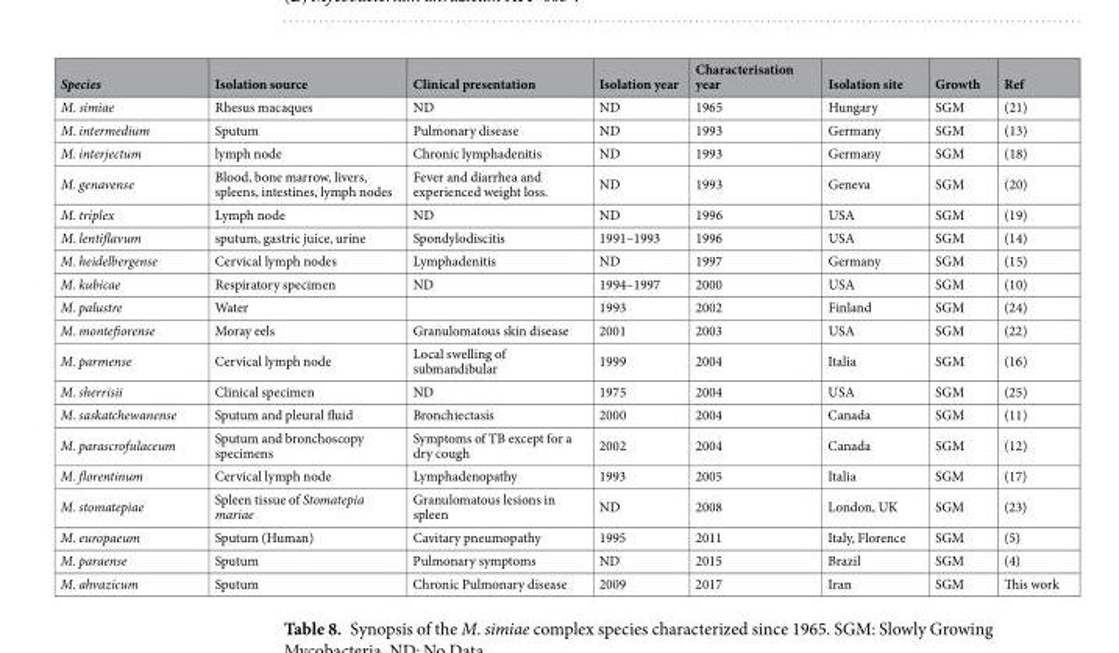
<table><thead><tr><td>Species</td><td>Isolation source</td><td>Clinical presentation</td><td>Isolation year</td><td>Characterisation year</td><td>Isolation site</td><td>Growth</td><td>Ref</td></tr></thead><tbody><tr><td>M. simiae</td><td>Rhesus macaques</td><td>ND</td><td>ND</td><td>1965</td><td>Hungary</td><td>SGM</td><td>(21)</td></tr><tr><td>M. intermedium</td><td>Sputum</td><td>Pulmonary disease</td><td>ND</td><td>1993</td><td>Germany</td><td>SGM</td><td>(13)</td></tr><tr><td>M. interjectum</td><td>lymph node</td><td>Chronic lymphadenitis</td><td>ND</td><td>1993</td><td>Germany</td><td>SGM</td><td>(18)</td></tr><tr><td>M. genavense</td><td>Blood, bone marrow, livers, spleens, intestines, lymph nodes</td><td>Fever and diarrhea and experienced weight loss.</td><td>ND</td><td>1993</td><td>Geneva</td><td>SGM</td><td>(20)</td></tr><tr><td>M. triplex</td><td>Lymph node</td><td>ND</td><td>ND</td><td>1996</td><td>USA</td><td>SGM</td><td>(19)</td></tr><tr><td>M. lentiflavum</td><td>sputum, gastric juice, urine</td><td>Spondylodiscitis</td><td>1991–1993</td><td>1996</td><td>USA</td><td>SGM</td><td>(14)</td></tr><tr><td>M. heidelbergense</td><td>Cervical lymph nodes</td><td>Lymphadenitis</td><td>ND</td><td>1997</td><td>Germany</td><td>SGM</td><td>(15)</td></tr><tr><td>M. kubicae</td><td>Respiratory specimen</td><td>ND</td><td>1994–1997</td><td>2000</td><td>USA</td><td>SGM</td><td>(10)</td></tr><tr><td>M. palustre</td><td>Water</td><td></td><td>1993</td><td>2002</td><td>Finland</td><td>SGM</td><td>(24)</td></tr><tr><td>M. montefiorense</td><td>Moray eels</td><td>Granulomatous skin disease</td><td>2001</td><td>2003</td><td>USA</td><td>SGM</td><td>(22)</td></tr><tr><td>M. parmense</td><td>Cervical lymph node</td><td>Local swelling of submandibular</td><td>1999</td><td>2004</td><td>Italia</td><td>SGM</td><td>(16)</td></tr><tr><td>M. sherrisii</td><td>Clinical specimen</td><td>ND</td><td>1975</td><td>2004</td><td>USA</td><td>SGM</td><td>(25)</td></tr><tr><td>M. saskatchewanense</td><td>Sputum and pleural fluid</td><td>Bronchiectasis</td><td>2000</td><td>2004</td><td>Canada</td><td>SGM</td><td>(11)</td></tr><tr><td>M. parascrofulaceum</td><td>Sputum and bronchoscopy specimens</td><td>Symptoms of TB except for a dry cough</td><td>2002</td><td>2004</td><td>Canada</td><td>SGM</td><td>(12)</td></tr><tr><td>M. florentinum</td><td>Cervical lymph node</td><td>Lymphadenopathy</td><td>1993</td><td>2005</td><td>Italia</td><td>SGM</td><td>(17)</td></tr><tr><td>M. stomatepiae</td><td>Spleen tissue of Stomatepia mariae</td><td>Granulomatous lesions in spleen</td><td>ND</td><td>2008</td><td>London, UK</td><td>SGM</td><td>(23)</td></tr><tr><td>M. europaeum</td><td>Sputum (Human)</td><td>Cavitary pneumopathy</td><td>1995</td><td>2011</td><td>Italy, Florence</td><td>SGM</td><td>(5)</td></tr><tr><td>M. paraense</td><td>Sputum</td><td>Pulmonary symptoms</td><td>ND</td><td>2015</td><td>Brazil</td><td>SGM</td><td>(4)</td></tr><tr><td>M. ahvazicum</td><td>Sputum</td><td>Chronic Pulmonary disease</td><td>2009</td><td>2017</td><td>Iran</td><td>SGM</td><td>This work</td></tr></tbody></table>